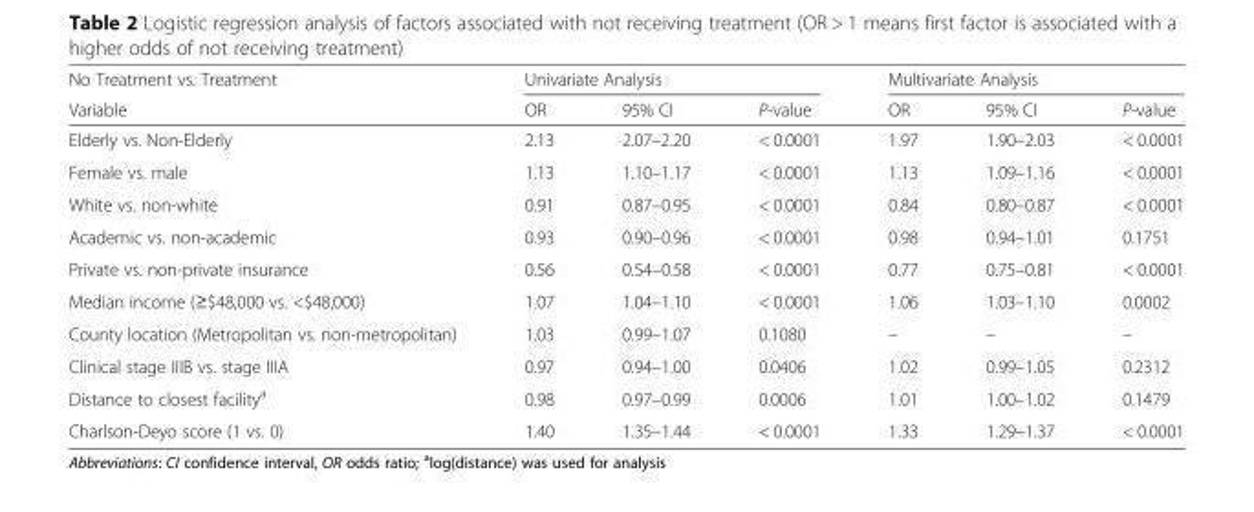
<table><thead><tr><td rowspan="2">No Treatment vs. Treatment Variable</td><td colspan="3">Univariate Analysis</td><td colspan="3">Multivariate Analysis</td></tr><tr><td>OR</td><td>95% CI</td><td>P-value</td><td>OR</td><td>95% CI</td><td>P-value</td></tr></thead><tbody><tr><td>Elderly vs. Non-Elderly</td><td>2.13</td><td>2.07–2.20</td><td>&lt; 0.0001</td><td>1.97</td><td>1.90–2.03</td><td>&lt; 0.0001</td></tr><tr><td>Female vs. male</td><td>1.13</td><td>1.10–1.17</td><td>&lt; 0.0001</td><td>1.13</td><td>1.09–1.16</td><td>&lt; 0.0001</td></tr><tr><td>White vs. non-white</td><td>0.91</td><td>0.87–0.95</td><td>&lt; 0.0001</td><td>0.84</td><td>0.80–0.87</td><td>&lt; 0.0001</td></tr><tr><td>Academic vs. non-academic</td><td>0.93</td><td>0.90–0.96</td><td>&lt; 0.0001</td><td>0.98</td><td>0.94–1.01</td><td>0.1751</td></tr><tr><td>Private vs. non-private insurance</td><td>0.56</td><td>0.54–0.58</td><td>&lt; 0.0001</td><td>0.77</td><td>0.75–0.81</td><td>&lt; 0.0001</td></tr><tr><td>Median income (≥$48,000 vs. &lt;$48,000)</td><td>1.07</td><td>1.04–1.10</td><td>&lt; 0.0001</td><td>1.06</td><td>1.03–1.10</td><td>0.0002</td></tr><tr><td>County location (Metropolitan vs. non-metropolitan)</td><td>1.03</td><td>0.99–1.07</td><td>0.1080</td><td>–</td><td>–</td><td>–</td></tr><tr><td>Clinical stage IIIB vs. stage IIIA</td><td>0.97</td><td>0.94–1.00</td><td>0.0406</td><td>1.02</td><td>0.99–1.05</td><td>0.2312</td></tr><tr><td>Distance to closest facility<sup>a</sup></td><td>0.98</td><td>0.97–0.99</td><td>0.0006</td><td>1.01</td><td>1.00–1.02</td><td>0.1479</td></tr><tr><td>Charlson-Deyo score (1 vs. 0)</td><td>1.40</td><td>1.35–1.44</td><td>&lt; 0.0001</td><td>1.33</td><td>1.29–1.37</td><td>&lt; 0.0001</td></tr></tbody></table>